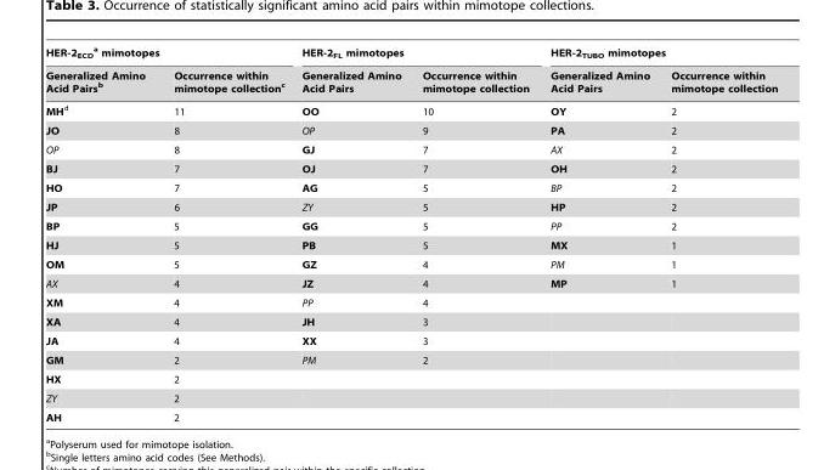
<table><thead><tr><td colspan="2">HER-2<sub>ECD</sub> a mimotopes</td><td colspan="2">HER-2<sub>FL</sub> mimotopes</td><td colspan="2">HER-2<sub>TUBO</sub> mimotopes</td></tr><tr><td>Generalized Amino Acid Pairs<sup>b</sup></td><td>Occurrence within mimotope collection<sup>c</sup></td><td>Generalized Amino Acid Pairs</td><td>Occurrence within mimotope collection</td><td>Generalized Amino Acid Pairs</td><td>Occurrence within mimotope collection</td></tr></thead><tbody><tr><td>MHd</td><td>11</td><td>OO</td><td>10</td><td>OY</td><td>2</td></tr><tr><td>JO</td><td>8</td><td>OP</td><td>9</td><td>PA</td><td>2</td></tr><tr><td>OP</td><td>8</td><td>GJ</td><td>7</td><td>AX</td><td>2</td></tr><tr><td>BJ</td><td>7</td><td>OJ</td><td>7</td><td>OH</td><td>2</td></tr><tr><td>HO</td><td>7</td><td>AG</td><td>5</td><td>BP</td><td>2</td></tr><tr><td>JP</td><td>6</td><td>ZY</td><td>5</td><td>HP</td><td>2</td></tr><tr><td>BP</td><td>5</td><td>GG</td><td>5</td><td>PP</td><td>2</td></tr><tr><td>HJ</td><td>5</td><td>PB</td><td>5</td><td>MX</td><td>1</td></tr><tr><td>OM</td><td>5</td><td>GZ</td><td>4</td><td>PM</td><td>1</td></tr><tr><td>AX</td><td>4</td><td>JZ</td><td>4</td><td>MP</td><td>1</td></tr><tr><td>XM</td><td>4</td><td>PP</td><td>4</td><td></td><td></td></tr><tr><td>XA</td><td>4</td><td>JH</td><td>3</td><td></td><td></td></tr><tr><td>JA</td><td>4</td><td>XX</td><td>3</td><td></td><td></td></tr><tr><td>GM</td><td>2</td><td>PM</td><td>2</td><td></td><td></td></tr><tr><td>HX</td><td>2</td><td></td><td></td><td></td><td></td></tr><tr><td>ZY</td><td>2</td><td></td><td></td><td></td><td></td></tr><tr><td>AH</td><td>2</td><td></td><td></td><td></td><td></td></tr></tbody></table>